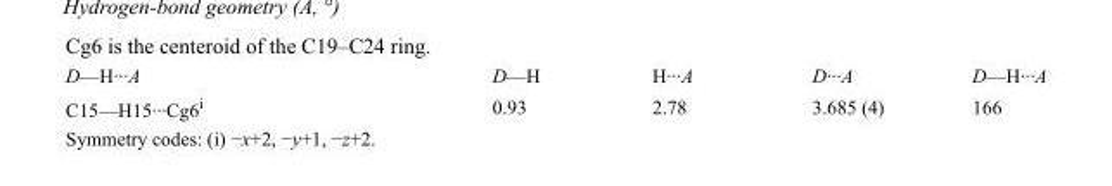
<table><tbody><tr><td>D—H···A</td><td>D—H</td><td>H···A</td><td>D···A</td><td>D—H···A</td></tr><tr><td>C15—H15···Cg6<sup>i</sup></td><td>0.93</td><td>2.78</td><td>3.685 (4)</td><td>166</td></tr></tbody></table>